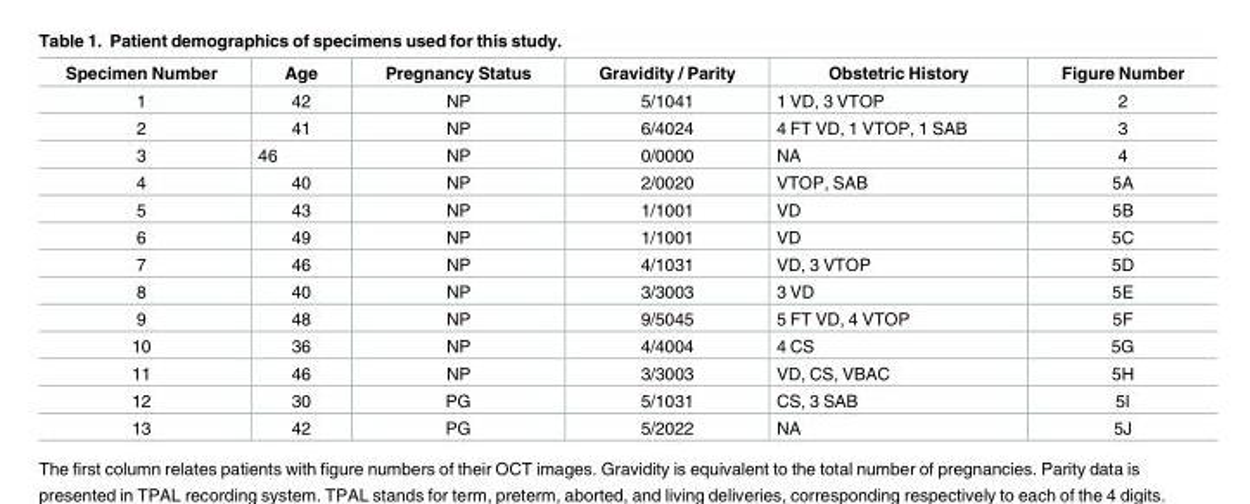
<table><thead><tr><td>Specimen Number</td><td>Age</td><td>Pregnancy Status</td><td>Gravidity / Parity</td><td>Obstetric History</td><td>Figure Number</td></tr></thead><tbody><tr><td>1</td><td>42</td><td>NP</td><td>5/1041</td><td>1 VD, 3 VTOP</td><td>2</td></tr><tr><td>2</td><td>41</td><td>NP</td><td>6/4024</td><td>4 FT VD, 1 VTOP, 1 SAB</td><td>3</td></tr><tr><td>3</td><td>46</td><td>NP</td><td>0/0000</td><td>NA</td><td>4</td></tr><tr><td>4</td><td>40</td><td>NP</td><td>2/0020</td><td>VTOP, SAB</td><td>5A</td></tr><tr><td>5</td><td>43</td><td>NP</td><td>1/1001</td><td>VD</td><td>5B</td></tr><tr><td>6</td><td>49</td><td>NP</td><td>1/1001</td><td>VD</td><td>5C</td></tr><tr><td>7</td><td>46</td><td>NP</td><td>4/1031</td><td>VD, 3 VTOP</td><td>5D</td></tr><tr><td>8</td><td>40</td><td>NP</td><td>3/3003</td><td>3 VD</td><td>5E</td></tr><tr><td>9</td><td>48</td><td>NP</td><td>9/5045</td><td>5 FT VD, 4 VTOP</td><td>5F</td></tr><tr><td>10</td><td>36</td><td>NP</td><td>4/4004</td><td>4 CS</td><td>5G</td></tr><tr><td>11</td><td>46</td><td>NP</td><td>3/3003</td><td>VD, CS, VBAC</td><td>5H</td></tr><tr><td>12</td><td>30</td><td>PG</td><td>5/1031</td><td>CS, 3 SAB</td><td>5I</td></tr><tr><td>13</td><td>42</td><td>PG</td><td>5/2022</td><td>NA</td><td>5J</td></tr></tbody></table>